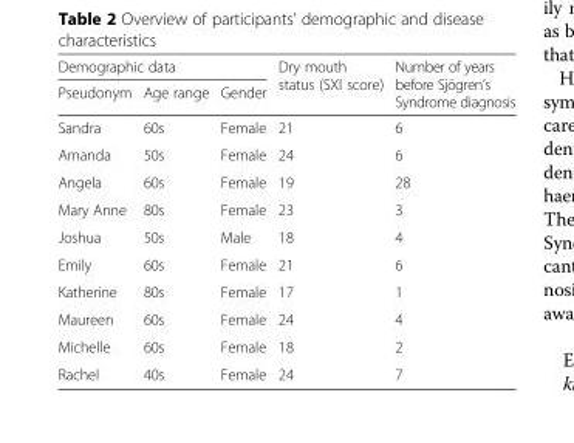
<table><thead><tr><td colspan="3">Demographic data</td><td rowspan="2">Dry mouth status (SXI score)</td><td rowspan="2">Number of years before Sjögren’s Syndrome diagnosis</td></tr><tr><td>Pseudonym</td><td>Age range</td><td>Gender</td></tr></thead><tbody><tr><td>Sandra</td><td>60s</td><td>Female</td><td>21</td><td>6</td></tr><tr><td>Amanda</td><td>50s</td><td>Female</td><td>24</td><td>6</td></tr><tr><td>Angela</td><td>60s</td><td>Female</td><td>19</td><td>28</td></tr><tr><td>Mary Anne</td><td>80s</td><td>Female</td><td>23</td><td>3</td></tr><tr><td>Joshua</td><td>50s</td><td>Male</td><td>18</td><td>4</td></tr><tr><td>Emily</td><td>60s</td><td>Female</td><td>21</td><td>6</td></tr><tr><td>Katherine</td><td>80s</td><td>Female</td><td>17</td><td>1</td></tr><tr><td>Maureen</td><td>60s</td><td>Female</td><td>24</td><td>4</td></tr><tr><td>Michelle</td><td>60s</td><td>Female</td><td>18</td><td>2</td></tr><tr><td>Rachel</td><td>40s</td><td>Female</td><td>24</td><td>7</td></tr></tbody></table>